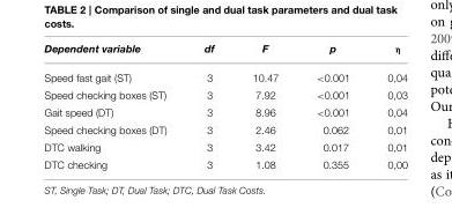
<table><thead><tr><td>Dependent variable</td><td>df</td><td>F</td><td>p</td><td>η</td></tr></thead><tbody><tr><td>Speed fast gait (ST)</td><td>3</td><td>10.47</td><td>&lt;0.001</td><td>0,04</td></tr><tr><td>Speed checking boxes (ST)</td><td>3</td><td>7.92</td><td>&lt;0.001</td><td>0,03</td></tr><tr><td>Gait speed (DT)</td><td>3</td><td>8.96</td><td>&lt;0.001</td><td>0,04</td></tr><tr><td>Speed checking boxes (DT)</td><td>3</td><td>2.46</td><td>0.062</td><td>0,01</td></tr><tr><td>DTC walking</td><td>3</td><td>3.42</td><td>0.017</td><td>0,01</td></tr><tr><td>DTC checking</td><td>3</td><td>1.08</td><td>0.355</td><td>0,00</td></tr></tbody></table>